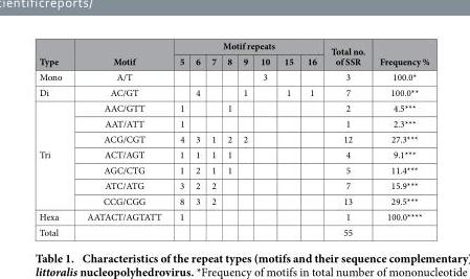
<table><thead><tr><td rowspan="2">Type</td><td rowspan="2">Motif</td><td colspan="8">Motif repeats</td><td rowspan="2">Total no. of SSR</td><td rowspan="2">Frequency %</td></tr><tr><td>5</td><td>6</td><td>7</td><td>8</td><td>9</td><td>10</td><td>15</td><td>16</td></tr></thead><tbody><tr><td>Mono</td><td>A/T</td><td></td><td></td><td></td><td></td><td></td><td>3</td><td></td><td></td><td>3</td><td>100.0*</td></tr><tr><td>Di</td><td>AC/GT</td><td></td><td>4</td><td></td><td></td><td>1</td><td></td><td>1</td><td>1</td><td>7</td><td>100.0**</td></tr><tr><td rowspan="7">Tri</td><td>AAC/GTT</td><td>1</td><td></td><td></td><td>1</td><td></td><td></td><td></td><td></td><td>2</td><td>4.5***</td></tr><tr><td>AAT/ATT</td><td>1</td><td></td><td></td><td></td><td></td><td></td><td></td><td></td><td>1</td><td>2.3***</td></tr><tr><td>ACG/CGT</td><td>4</td><td>3</td><td>1</td><td>2</td><td>2</td><td></td><td></td><td></td><td>12</td><td>27.3***</td></tr><tr><td>ACT/AGT</td><td>1</td><td>1</td><td>1</td><td>1</td><td></td><td></td><td></td><td></td><td>4</td><td>9.1***</td></tr><tr><td>AGC/CTG</td><td>1</td><td>2</td><td>1</td><td>1</td><td></td><td></td><td></td><td></td><td>5</td><td>11.4***</td></tr><tr><td>ATC/ATG</td><td>3</td><td>2</td><td>2</td><td></td><td></td><td></td><td></td><td></td><td>7</td><td>15.9***</td></tr><tr><td>CCG/CGG</td><td>8</td><td>3</td><td>2</td><td></td><td></td><td></td><td></td><td></td><td>13</td><td>29.5***</td></tr><tr><td>Hexa</td><td>AATACT/AGTATT</td><td>1</td><td></td><td></td><td></td><td></td><td></td><td></td><td></td><td>1</td><td>100.0****</td></tr><tr><td>Total</td><td></td><td></td><td></td><td></td><td></td><td></td><td></td><td></td><td></td><td>55</td><td></td></tr></tbody></table>